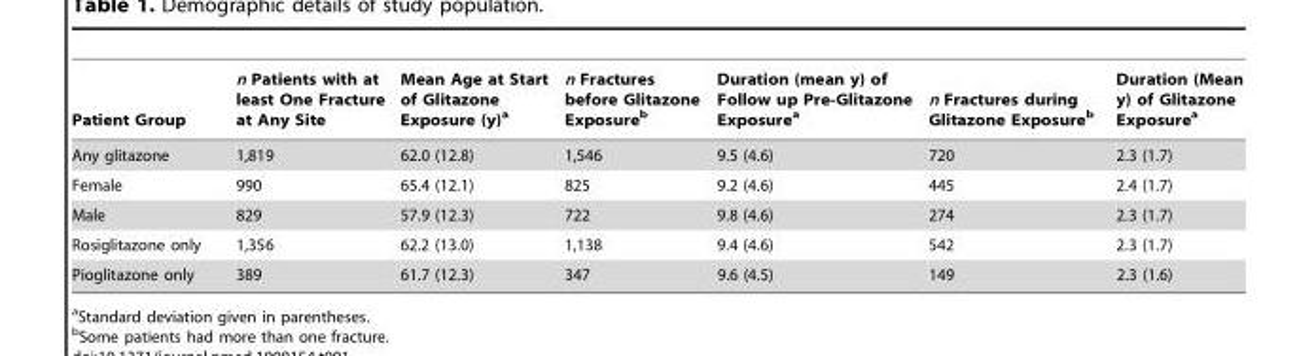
<table><thead><tr><td>Patient Group</td><td>n Patients with at least One Fracture at Any Site</td><td>Mean Age at Start of Glitazone Exposure (y)<sup>a</sup></td><td>n Fractures before Glitazone Exposure<sup>b</sup></td><td>Duration (mean y) of Follow up Pre-Glitazone Exposure<sup>a</sup></td><td>n Fractures during Glitazone Exposure<sup>b</sup></td><td>Duration (Mean y) of Glitazone Exposure<sup>a</sup></td></tr></thead><tbody><tr><td>Any glitazone</td><td>1,819</td><td>62.0 (12.8)</td><td>1,546</td><td>9.5 (4.6)</td><td>720</td><td>2.3 (1.7)</td></tr><tr><td>Female</td><td>990</td><td>65.4 (12.1)</td><td>825</td><td>9.2 (4.6)</td><td>445</td><td>2.4 (1.7)</td></tr><tr><td>Male</td><td>829</td><td>57.9 (12.3)</td><td>722</td><td>9.8 (4.6)</td><td>274</td><td>2.3 (1.7)</td></tr><tr><td>Rosiglitazone only</td><td>1,356</td><td>62.2 (13.0)</td><td>1,138</td><td>9.4 (4.6)</td><td>542</td><td>2.3 (1.7)</td></tr><tr><td>Pioglitazone only</td><td>389</td><td>61.7 (12.3)</td><td>347</td><td>9.6 (4.5)</td><td>149</td><td>2.3 (1.6)</td></tr></tbody></table>